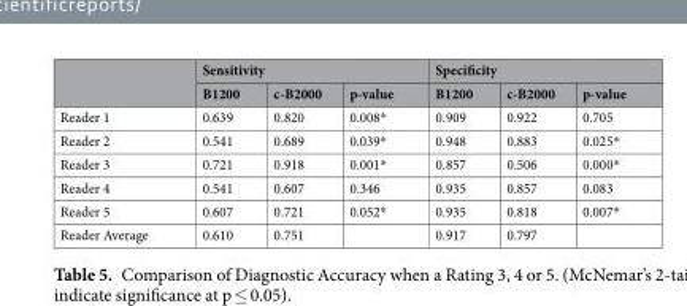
<table><thead><tr><td rowspan="2"></td><td colspan="3">Sensitivity</td><td colspan="3">Specificity</td></tr><tr><td>B1200</td><td>c-B2000</td><td>p-value</td><td>B1200</td><td>c-B2000</td><td>p-value</td></tr></thead><tbody><tr><td>Reader 1</td><td>0.639</td><td>0.820</td><td>0.008*</td><td>0.909</td><td>0.922</td><td>0.705</td></tr><tr><td>Reader 2</td><td>0.541</td><td>0.689</td><td>0.039*</td><td>0.948</td><td>0.883</td><td>0.025*</td></tr><tr><td>Reader 3</td><td>0.721</td><td>0.918</td><td>0.001*</td><td>0.857</td><td>0.506</td><td>0.000*</td></tr><tr><td>Reader 4</td><td>0.541</td><td>0.607</td><td>0.346</td><td>0.935</td><td>0.857</td><td>0.083</td></tr><tr><td>Reader 5</td><td>0.607</td><td>0.721</td><td>0.052*</td><td>0.935</td><td>0.818</td><td>0.007*</td></tr><tr><td>Reader Average</td><td>0.610</td><td>0.751</td><td></td><td>0.917</td><td>0.797</td><td></td></tr></tbody></table>